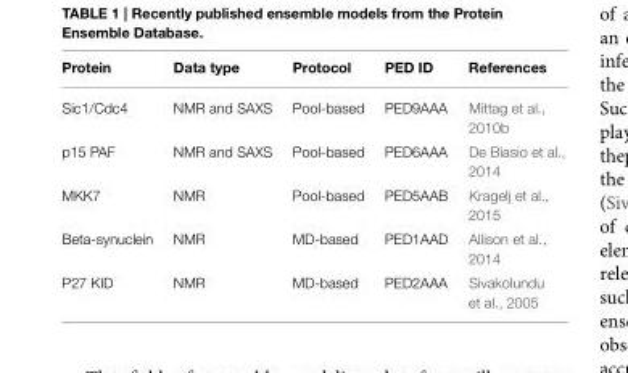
<table><thead><tr><td>Protein</td><td>Data type</td><td>Protocol</td><td>PED ID</td><td>References</td></tr></thead><tbody><tr><td>Sic1/Cdc4</td><td>NMR and SAXS</td><td>Pool-based</td><td>PED9AAA</td><td>Mittag et al., 2010b</td></tr><tr><td>p15 PAF</td><td>NMR and SAXS</td><td>Pool-based</td><td>PED6AAA</td><td>De Biasio et al., 2014</td></tr><tr><td>MKK7</td><td>NMR</td><td>Pool-based</td><td>PED5AAB</td><td>Kragelj et al., 2015</td></tr><tr><td>Beta-synuclein</td><td>NMR</td><td>MD-based</td><td>PED1AAD</td><td>Allison et al., 2014</td></tr><tr><td>P27 KID</td><td>NMR</td><td>MD-based</td><td>PED2AAA</td><td>Sivakolundu et al., 2005</td></tr></tbody></table>